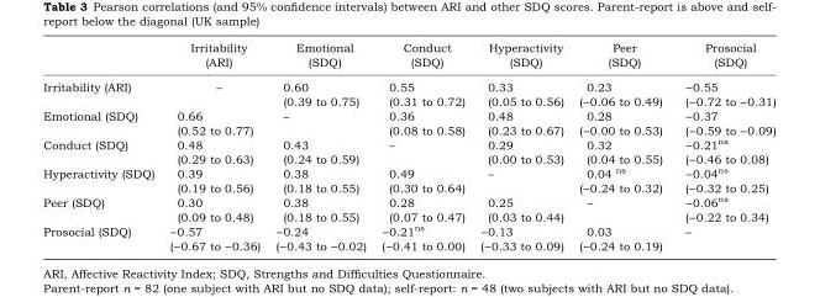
<table><thead><tr><td></td><td>Irritability (ARI)</td><td>Emotional (SDQ)</td><td>Conduct (SDQ)</td><td>Hyperactivity (SDQ)</td><td>Peer (SDQ)</td><td>Prosocial (SDQ)</td></tr></thead><tbody><tr><td>Irritability (ARI)</td><td>–</td><td>0.60 (0.39 to 0.75)</td><td>0.55 (0.31 to 0.72)</td><td>0.33 (0.05 to 0.56)</td><td>0.23 (−0.06 to 0.49)</td><td>−0.55 (−0.72 to −0.31)</td></tr><tr><td>Emotional (SDQ)</td><td>0.66 (0.52 to 0.77)</td><td>–</td><td>0.36 (0.08 to 0.58)</td><td>0.48 (0.23 to 0.67)</td><td>0.28 (−0.00 to 0.53)</td><td>−0.37 (−0.59 to −0.09)</td></tr><tr><td>Conduct (SDQ)</td><td>0.48 (0.29 to 0.63)</td><td>0.43 (0.24 to 0.59)</td><td>–</td><td>0.29 (0.00 to 0.53)</td><td>0.32 (0.04 to 0.55)</td><td>−0.21<sup>ns</sup> (−0.46 to 0.08)</td></tr><tr><td>Hyperactivity (SDQ)</td><td>0.39 (0.19 to 0.56)</td><td>0.38 (0.18 to 0.55)</td><td>0.49 (0.30 to 0.64)</td><td>–</td><td>0.04 <sup>ns</sup> (−0.24 to 0.32)</td><td>−0.04<sup>ns</sup> (−0.32 to 0.25)</td></tr><tr><td>Peer (SDQ)</td><td>0.30 (0.09 to 0.48)</td><td>0.38 (0.18 to 0.55)</td><td>0.28 (0.07 to 0.47)</td><td>0.25 (0.03 to 0.44)</td><td>–</td><td>−0.06<sup>ns</sup> (−0.22 to 0.34)</td></tr><tr><td>Prosocial (SDQ)</td><td>−0.57 (−0.67 to −0.36)</td><td>−0.24 (−0.43 to −0.02)</td><td>−0.21<sup>ns</sup> (−0.41 to 0.00)</td><td>−0.13 (−0.33 to 0.09)</td><td>0.03 (−0.24 to 0.19)</td><td>–</td></tr></tbody></table>